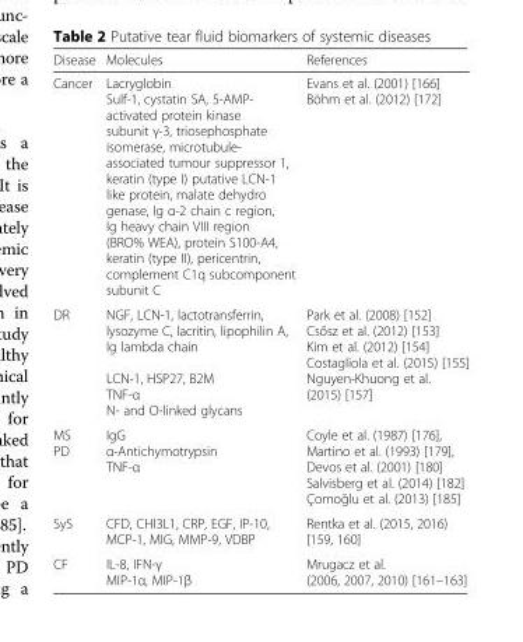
<table><thead><tr><td>Disease</td><td>Molecules</td><td>References</td></tr></thead><tbody><tr><td>Cancer</td><td>Lacryglobin Sulf-1, cystatin SA, 5-AMP- activated protein kinase subunit γ-3, triosephosphate isomerase, microtubule- associated tumour suppressor 1, keratin (type I) putative LCN-1 like protein, malate dehydro genase, Ig α-2 chain c region, Ig heavy chain VIII region (BRO% WEA), protein S100-A4, keratin (type II), pericentrin, complement C1q subcomponent subunit C</td><td>Evans et al. (2001) [166] Böhm et al. (2012) [172]</td></tr><tr><td>DR</td><td>NGF, LCN-1, lactotransferrin, lysozyme C, lacritin, lipophilin A, Ig lambda chain LCN-1, HSP27, B2M TNF-α N- and O-linked glycans</td><td>Park et al. (2008) [152] Csősz et al. (2012) [153] Kim et al. (2012) [154] Costagliola et al. (2015) [155] Nguyen-Khuong et al. (2015) [157]</td></tr><tr><td>MS PD</td><td>IgG α-Antichymotrypsin TNF-α</td><td>Coyle et al. (1987) [176], Martino et al. (1993) [179], Devos et al. (2001) [180] Salvisberg et al. (2014) [182] Çomoğlu et al. (2013) [185]</td></tr><tr><td>SyS</td><td>CFD, CHI3L1, CRP, EGF, IP-10, MCP-1, MIG, MMP-9, VDBP</td><td>Rentka et al. (2015, 2016) [159, 160]</td></tr><tr><td>CF</td><td>IL-8, IFN-γ MIP-1α, MIP-1β</td><td>Mrugacz et al. (2006, 2007, 2010) [161–163]</td></tr></tbody></table>